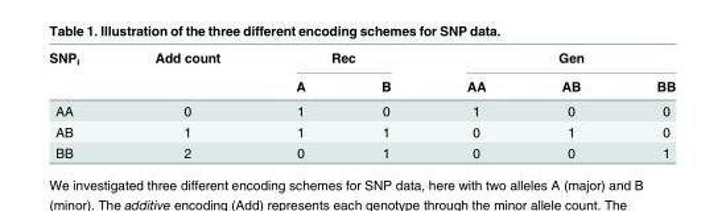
<table><thead><tr><td rowspan="2">SNP<sub>i</sub></td><td rowspan="2">Add count</td><td colspan="2">Rec</td><td colspan="3">Gen</td></tr><tr><td>A</td><td>B</td><td>AA</td><td>AB</td><td>BB</td></tr></thead><tbody><tr><td>AA</td><td>0</td><td>1</td><td>0</td><td>1</td><td>0</td><td>0</td></tr><tr><td>AB</td><td>1</td><td>1</td><td>1</td><td>0</td><td>1</td><td>0</td></tr><tr><td>BB</td><td>2</td><td>0</td><td>1</td><td>0</td><td>0</td><td>1</td></tr></tbody></table>